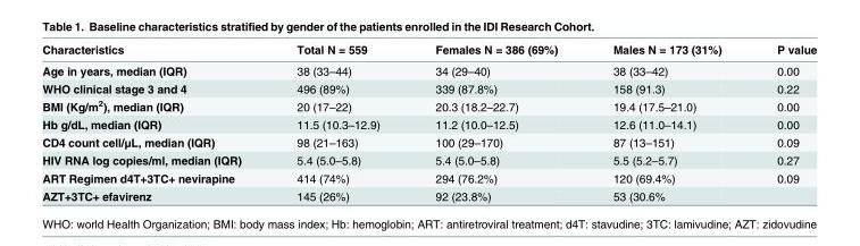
<table><thead><tr><td>Characteristics</td><td>Total N = 559</td><td>Females N = 386 (69%)</td><td>Males N = 173 (31%)</td><td>P value</td></tr></thead><tbody><tr><td>Age in years, median (IQR)</td><td>38 (33–44)</td><td>34 (29–40)</td><td>38 (33–42)</td><td>0.00</td></tr><tr><td>WHO clinical stage 3 and 4</td><td>496 (89%)</td><td>339 (87.8%)</td><td>158 (91.3)</td><td>0.22</td></tr><tr><td>BMI (Kg/m<sup>2</sup>), median (IQR)</td><td>20 (17–22)</td><td>20.3 (18.2–22.7)</td><td>19.4 (17.5–21.0)</td><td>0.00</td></tr><tr><td>Hb g/dL, median (IQR)</td><td>11.5 (10.3–12.9)</td><td>11.2 (10.0–12.5)</td><td>12.6 (11.0–14.1)</td><td>0.00</td></tr><tr><td>CD4 count cell/μL, median (IQR)</td><td>98 (21–163)</td><td>100 (29–170)</td><td>87 (13–151)</td><td>0.09</td></tr><tr><td>HIV RNA log copies/ml, median (IQR)</td><td>5.4 (5.0–5.8)</td><td>5.4 (5.0–5.8)</td><td>5.5 (5.2–5.7)</td><td>0.27</td></tr><tr><td>ART Regimen d4T+3TC+ nevirapine</td><td>414 (74%)</td><td>294 (76.2%)</td><td>120 (69.4%)</td><td>0.09</td></tr><tr><td>AZT+3TC+ efavirenz</td><td>145 (26%)</td><td>92 (23.8%)</td><td>53 (30.6%</td><td></td></tr></tbody></table>